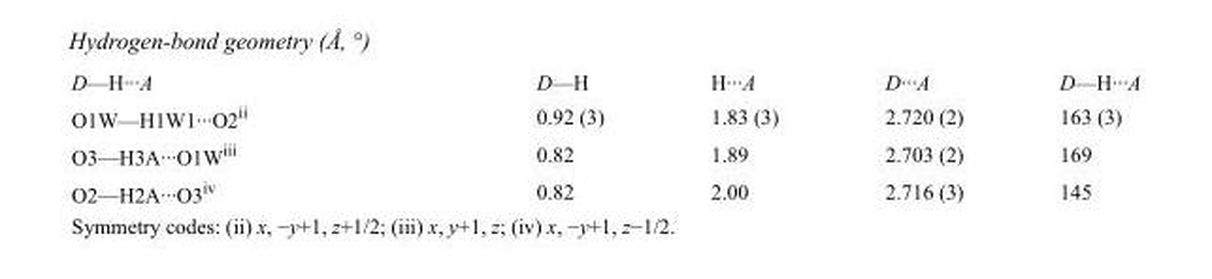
<table><tbody><tr><td>D—H···A</td><td>D—H</td><td>H···A</td><td>D···A</td><td>D—H···A</td></tr><tr><td>O1W—H1W1···O2<sup>ii</sup></td><td>0.92 (3)</td><td>1.83 (3)</td><td>2.720 (2)</td><td>163 (3)</td></tr><tr><td>O3—H3A···O1W<sup>iii</sup></td><td>0.82</td><td>1.89</td><td>2.703 (2)</td><td>169</td></tr><tr><td>O2—H2A···O3<sup>iv</sup></td><td>0.82</td><td>2.00</td><td>2.716 (3)</td><td>145</td></tr></tbody></table>